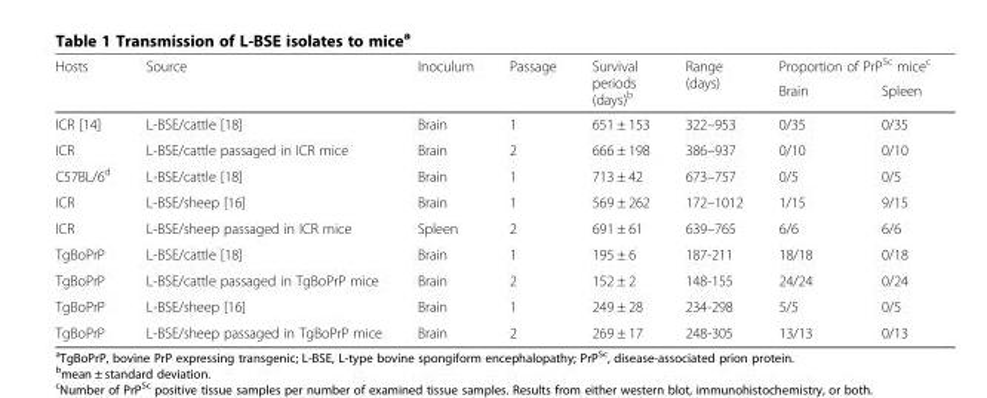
<table><thead><tr><td rowspan="2">Hosts</td><td rowspan="2">Source</td><td rowspan="2">Inoculum</td><td rowspan="2">Passage</td><td rowspan="2">Survival periods (days)<sup>b</sup></td><td rowspan="2">Range (days)</td><td colspan="2">Proportion of PrP<sup>Sc</sup> mice<sup>c</sup></td></tr><tr><td>Brain</td><td>Spleen</td></tr></thead><tbody><tr><td>ICR [14]</td><td>L-BSE/cattle [18]</td><td>Brain</td><td>1</td><td>651 ± 153</td><td>322–953</td><td>0/35</td><td>0/35</td></tr><tr><td>ICR</td><td>L-BSE/cattle passaged in ICR mice</td><td>Brain</td><td>2</td><td>666 ± 198</td><td>386–937</td><td>0/10</td><td>0/10</td></tr><tr><td>C57BL/6<sup>d</sup></td><td>L-BSE/cattle [18]</td><td>Brain</td><td>1</td><td>713 ± 42</td><td>673–757</td><td>0/5</td><td>0/5</td></tr><tr><td>ICR</td><td>L-BSE/sheep [16]</td><td>Brain</td><td>1</td><td>569 ± 262</td><td>172–1012</td><td>1/15</td><td>9/15</td></tr><tr><td>ICR</td><td>L-BSE/sheep passaged in ICR mice</td><td>Spleen</td><td>2</td><td>691 ± 61</td><td>639–765</td><td>6/6</td><td>6/6</td></tr><tr><td>TgBoPrP</td><td>L-BSE/cattle [18]</td><td>Brain</td><td>1</td><td>195 ± 6</td><td>187-211</td><td>18/18</td><td>0/18</td></tr><tr><td>TgBoPrP</td><td>L-BSE/cattle passaged in TgBoPrP mice</td><td>Brain</td><td>2</td><td>152 ± 2</td><td>148-155</td><td>24/24</td><td>0/24</td></tr><tr><td>TgBoPrP</td><td>L-BSE/sheep [16]</td><td>Brain</td><td>1</td><td>249 ± 28</td><td>234-298</td><td>5/5</td><td>0/5</td></tr><tr><td>TgBoPrP</td><td>L-BSE/sheep passaged in TgBoPrP mice</td><td>Brain</td><td>2</td><td>269 ± 17</td><td>248-305</td><td>13/13</td><td>0/13</td></tr></tbody></table>